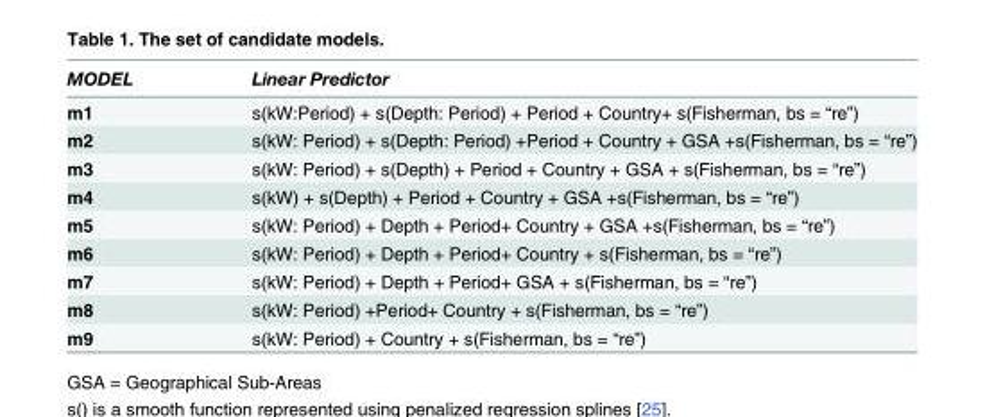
<table><thead><tr><td>MODEL</td><td>Linear Predictor</td></tr></thead><tbody><tr><td>m1</td><td>s(kW:Period) + s(Depth: Period) + Period + Country+ s(Fisherman, bs = “re”)</td></tr><tr><td>m2</td><td>s(kW: Period) + s(Depth: Period) +Period + Country + GSA +s(Fisherman, bs = “re”)</td></tr><tr><td>m3</td><td>s(kW: Period) + s(Depth) + Period + Country + GSA + s(Fisherman, bs = “re”)</td></tr><tr><td>m4</td><td>s(kW) + s(Depth) + Period + Country + GSA +s(Fisherman, bs = “re”)</td></tr><tr><td>m5</td><td>s(kW: Period) + Depth + Period+ Country + GSA +s(Fisherman, bs = “re”)</td></tr><tr><td>m6</td><td>s(kW: Period) + Depth + Period+ Country + s(Fisherman, bs = “re”)</td></tr><tr><td>m7</td><td>s(kW: Period) + Depth + Period+ GSA + s(Fisherman, bs = “re”)</td></tr><tr><td>m8</td><td>s(kW: Period) +Period+ Country + s(Fisherman, bs = “re”)</td></tr><tr><td>m9</td><td>s(kW: Period) + Country + s(Fisherman, bs = “re”)</td></tr></tbody></table>